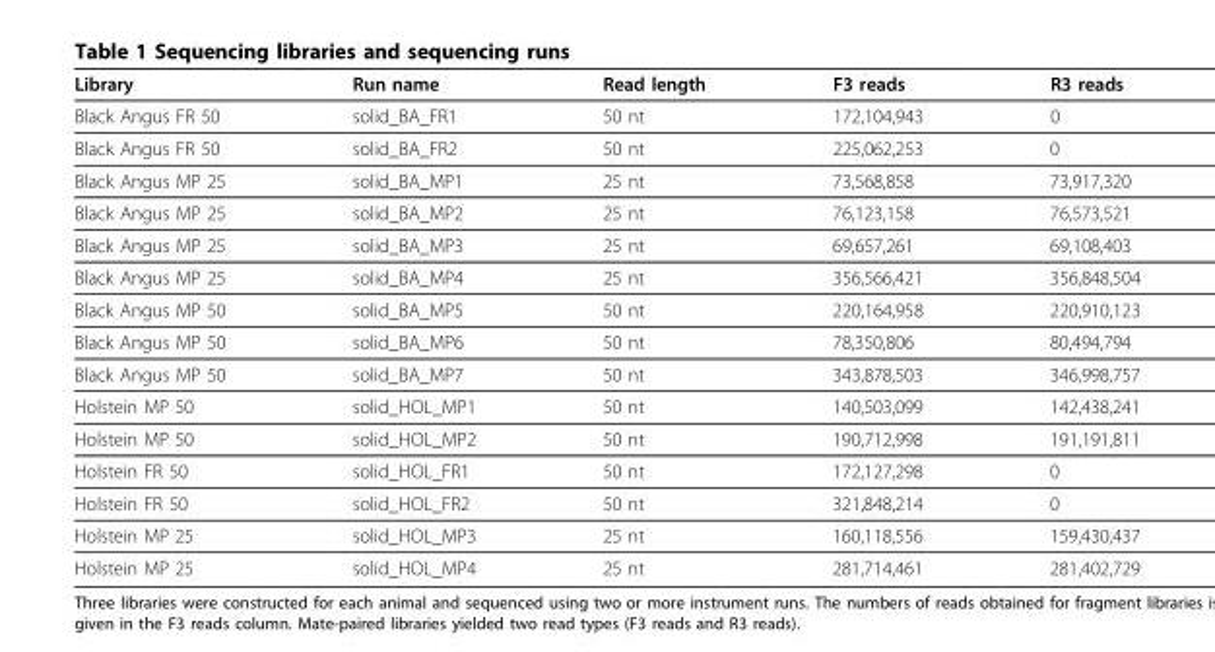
<table><thead><tr><td>Library</td><td>Run name</td><td>Read length</td><td>F3 reads</td><td>R3 reads</td></tr></thead><tbody><tr><td>Black Angus FR 50</td><td>solid_BA_FR1</td><td>50 nt</td><td>172,104,943</td><td>0</td></tr><tr><td>Black Angus FR 50</td><td>solid_BA_FR2</td><td>50 nt</td><td>225,062,253</td><td>0</td></tr><tr><td>Black Angus MP 25</td><td>solid_BA_MP1</td><td>25 nt</td><td>73,568,858</td><td>73,917,320</td></tr><tr><td>Black Angus MP 25</td><td>solid_BA_MP2</td><td>25 nt</td><td>76,123,158</td><td>76,573,521</td></tr><tr><td>Black Angus MP 25</td><td>solid_BA_MP3</td><td>25 nt</td><td>69,657,261</td><td>69,108,403</td></tr><tr><td>Black Angus MP 25</td><td>solid_BA_MP4</td><td>25 nt</td><td>356,566,421</td><td>356,848,504</td></tr><tr><td>Black Angus MP 50</td><td>solid_BA_MP5</td><td>50 nt</td><td>220,164,958</td><td>220,910,123</td></tr><tr><td>Black Angus MP 50</td><td>solid_BA_MP6</td><td>50 nt</td><td>78,350,806</td><td>80,494,794</td></tr><tr><td>Black Angus MP 50</td><td>solid_BA_MP7</td><td>50 nt</td><td>343,878,503</td><td>346,998,757</td></tr><tr><td>Holstein MP 50</td><td>solid_HOL_MP1</td><td>50 nt</td><td>140,503,099</td><td>142,438,241</td></tr><tr><td>Holstein MP 50</td><td>solid_HOL_MP2</td><td>50 nt</td><td>190,712,998</td><td>191,191,811</td></tr><tr><td>Holstein FR 50</td><td>solid_HOL_FR1</td><td>50 nt</td><td>172,127,298</td><td>0</td></tr><tr><td>Holstein FR 50</td><td>solid_HOL_FR2</td><td>50 nt</td><td>321,848,214</td><td>0</td></tr><tr><td>Holstein MP 25</td><td>solid_HOL_MP3</td><td>25 nt</td><td>160,118,556</td><td>159,430,437</td></tr><tr><td>Holstein MP 25</td><td>solid_HOL_MP4</td><td>25 nt</td><td>281,714,461</td><td>281,402,729</td></tr></tbody></table>